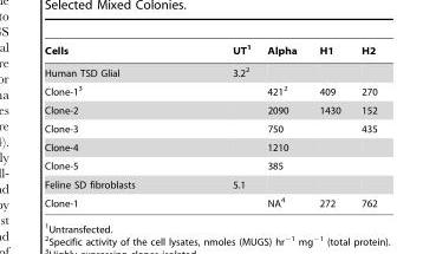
<table><thead><tr><td>Cells</td><td>UT<sup>1</sup></td><td>Alpha</td><td>H1</td><td>H2</td></tr></thead><tbody><tr><td>Human TSD Glial</td><td>3.2<sup>2</sup></td><td></td><td></td><td></td></tr><tr><td>Clone-1<sup>3</sup></td><td></td><td>421<sup>2</sup></td><td>409</td><td>270</td></tr><tr><td>Clone-2</td><td></td><td>2090</td><td>1430</td><td>152</td></tr><tr><td>Clone-3</td><td></td><td>750</td><td></td><td>435</td></tr><tr><td>Clone-4</td><td></td><td>1210</td><td></td><td></td></tr><tr><td>Clone-5</td><td></td><td>385</td><td></td><td></td></tr><tr><td>Feline SD fibroblasts</td><td>5.1</td><td></td><td></td><td></td></tr><tr><td>Clone-1</td><td></td><td>NA<sup>4</sup></td><td>272</td><td>762</td></tr></tbody></table>